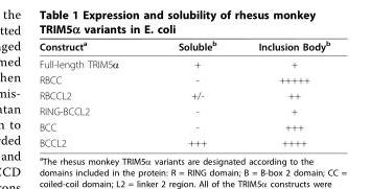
<table><thead><tr><td>Construct<sup>a</sup></td><td>Soluble<sup>b</sup></td><td>Inclusion Body<sup>b</sup></td></tr></thead><tbody><tr><td>Full-length TRIM5α</td><td>+</td><td>+</td></tr><tr><td>RBCC</td><td>-</td><td>+++++</td></tr><tr><td>RBCCL2</td><td>+/-</td><td>++</td></tr><tr><td>RING-BCCL2</td><td>-</td><td>+</td></tr><tr><td>BCC</td><td>-</td><td>+++</td></tr><tr><td>BCCL2</td><td>+++</td><td>++++</td></tr></tbody></table>